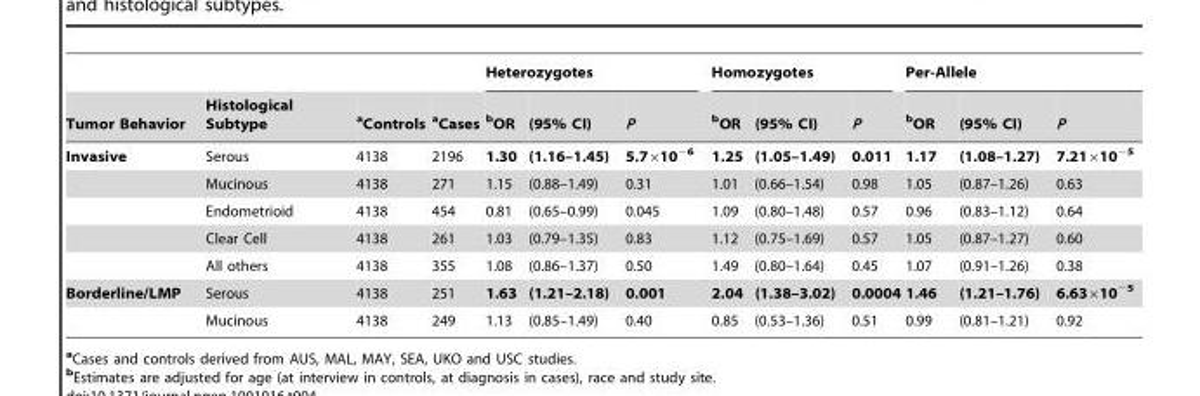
<table><thead><tr><td rowspan="2">Tumor Behavior</td><td rowspan="2">Histological Subtype</td><td rowspan="2">aControls</td><td rowspan="2">aCases</td><td colspan="3">Heterozygotes</td><td colspan="3">Homozygotes</td><td colspan="3">Per-Allele</td></tr><tr><td>bOR</td><td>(95% CI)</td><td>P</td><td>bOR</td><td>(95% CI)</td><td>P</td><td>bOR</td><td>(95% CI)</td><td>P</td></tr></thead><tbody><tr><td rowspan="5">Invasive</td><td>Serous</td><td>4138</td><td>2196</td><td>1.30</td><td>(1.16–1.45)</td><td>5.7×10<sup>−6</sup></td><td>1.25</td><td>(1.05–1.49)</td><td>0.011</td><td>1.17</td><td>(1.08–1.27)</td><td>7.21×10<sup>−5</sup></td></tr><tr><td>Mucinous</td><td>4138</td><td>271</td><td>1.15</td><td>(0.88–1.49)</td><td>0.31</td><td>1.01</td><td>(0.66–1.54)</td><td>0.98</td><td>1.05</td><td>(0.87–1.26)</td><td>0.63</td></tr><tr><td>Endometrioid</td><td>4138</td><td>454</td><td>0.81</td><td>(0.65–0.99)</td><td>0.045</td><td>1.09</td><td>(0.80–1.48)</td><td>0.57</td><td>0.96</td><td>(0.83–1.12)</td><td>0.64</td></tr><tr><td>Clear Cell</td><td>4138</td><td>261</td><td>1.03</td><td>(0.79–1.35)</td><td>0.83</td><td>1.12</td><td>(0.75–1.69)</td><td>0.57</td><td>1.05</td><td>(0.87–1.27)</td><td>0.60</td></tr><tr><td>All others</td><td>4138</td><td>355</td><td>1.08</td><td>(0.86–1.37)</td><td>0.50</td><td>1.49</td><td>(0.80–1.64)</td><td>0.45</td><td>1.07</td><td>(0.91–1.26)</td><td>0.38</td></tr><tr><td rowspan="2">Borderline/LMP</td><td>Serous</td><td>4138</td><td>251</td><td>1.63</td><td>(1.21–2.18)</td><td>0.001</td><td>2.04</td><td>(1.38–3.02)</td><td>0.0004</td><td>1.46</td><td>(1.21–1.76)</td><td>6.63×10<sup>−5</sup></td></tr><tr><td>Mucinous</td><td>4138</td><td>249</td><td>1.13</td><td>(0.85–1.49)</td><td>0.40</td><td>0.85</td><td>(0.53–1.36)</td><td>0.51</td><td>0.99</td><td>(0.81–1.21)</td><td>0.92</td></tr></tbody></table>